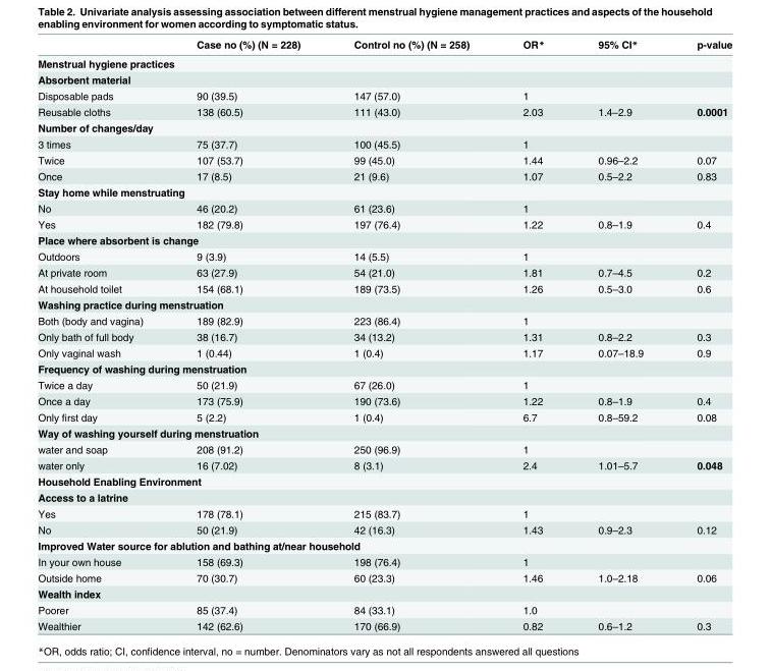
<table><thead><tr><td></td><td>Case no (%) (N = 228)</td><td>Control no (%) (N = 258)</td><td>OR*</td><td>95% CI*</td><td>p-value</td></tr></thead><tbody><tr><td colspan="6">Menstrual hygiene practices</td></tr><tr><td colspan="6">Absorbent material</td></tr><tr><td>Disposable pads</td><td>90 (39.5)</td><td>147 (57.0)</td><td>1</td><td></td><td></td></tr><tr><td>Reusable cloths</td><td>138 (60.5)</td><td>111 (43.0)</td><td>2.03</td><td>1.4–2.9</td><td>0.0001</td></tr><tr><td colspan="6">Number of changes/day</td></tr><tr><td>3 times</td><td>75 (37.7)</td><td>100 (45.5)</td><td>1</td><td></td><td></td></tr><tr><td>Twice</td><td>107 (53.7)</td><td>99 (45.0)</td><td>1.44</td><td>0.96–2.2</td><td>0.07</td></tr><tr><td>Once</td><td>17 (8.5)</td><td>21 (9.6)</td><td>1.07</td><td>0.5–2.2</td><td>0.83</td></tr><tr><td colspan="6">Stay home while menstruating</td></tr><tr><td>No</td><td>46 (20.2)</td><td>61 (23.6)</td><td>1</td><td></td><td></td></tr><tr><td>Yes</td><td>182 (79.8)</td><td>197 (76.4)</td><td>1.22</td><td>0.8–1.9</td><td>0.4</td></tr><tr><td colspan="6">Place where absorbent is change</td></tr><tr><td>Outdoors</td><td>9 (3.9)</td><td>14 (5.5)</td><td>1</td><td></td><td></td></tr><tr><td>At private room</td><td>63 (27.9)</td><td>54 (21.0)</td><td>1.81</td><td>0.7–4.5</td><td>0.2</td></tr><tr><td>At household toilet</td><td>154 (68.1)</td><td>189 (73.5)</td><td>1.26</td><td>0.5–3.0</td><td>0.6</td></tr><tr><td colspan="6">Washing practice during menstruation</td></tr><tr><td>Both (body and vagina)</td><td>189 (82.9)</td><td>223 (86.4)</td><td>1</td><td></td><td></td></tr><tr><td>Only bath of full body</td><td>38 (16.7)</td><td>34 (13.2)</td><td>1.31</td><td>0.8–2.2</td><td>0.3</td></tr><tr><td>Only vaginal wash</td><td>1 (0.44)</td><td>1 (0.4)</td><td>1.17</td><td>0.07–18.9</td><td>0.9</td></tr><tr><td colspan="6">Frequency of washing during menstruation</td></tr><tr><td>Twice a day</td><td>50 (21.9)</td><td>67 (26.0)</td><td>1</td><td></td><td></td></tr><tr><td>Once a day</td><td>173 (75.9)</td><td>190 (73.6)</td><td>1.22</td><td>0.8–1.9</td><td>0.4</td></tr><tr><td>Only first day</td><td>5 (2.2)</td><td>1 (0.4)</td><td>6.7</td><td>0.8–59.2</td><td>0.08</td></tr><tr><td colspan="6">Way of washing yourself during menstruation</td></tr><tr><td>water and soap</td><td>208 (91.2)</td><td>250 (96.9)</td><td>1</td><td></td><td></td></tr><tr><td>water only</td><td>16 (7.02)</td><td>8 (3.1)</td><td>2.4</td><td>1.01–5.7</td><td>0.048</td></tr><tr><td colspan="6">Household Enabling Environment</td></tr><tr><td colspan="6">Access to a latrine</td></tr><tr><td>Yes</td><td>178 (78.1)</td><td>215 (83.7)</td><td>1</td><td></td><td></td></tr><tr><td>No</td><td>50 (21.9)</td><td>42 (16.3)</td><td>1.43</td><td>0.9–2.3</td><td>0.12</td></tr><tr><td colspan="6">Improved Water source for ablution and bathing at/near household</td></tr><tr><td>In your own house</td><td>158 (69.3)</td><td>198 (76.4)</td><td>1</td><td></td><td></td></tr><tr><td>Outside home</td><td>70 (30.7)</td><td>60 (23.3)</td><td>1.46</td><td>1.0–2.18</td><td>0.06</td></tr><tr><td colspan="6">Wealth index</td></tr><tr><td>Poorer</td><td>85 (37.4)</td><td>84 (33.1)</td><td>1.0</td><td></td><td></td></tr><tr><td>Wealthier</td><td>142 (62.6)</td><td>170 (66.9)</td><td>0.82</td><td>0.6–1.2</td><td>0.3</td></tr></tbody></table>